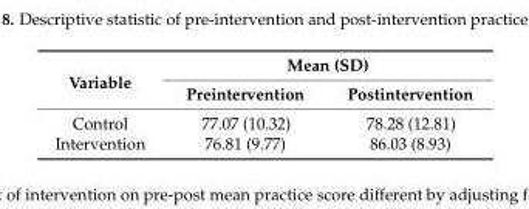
<table><thead><tr><td rowspan="2">Variable</td><td colspan="2">Mean (SD)</td></tr><tr><td>Preintervention</td><td>Postintervention</td></tr></thead><tbody><tr><td>Control Intervention</td><td>77.07 (10.32) 76.81 (9.77)</td><td>78.28 (12.81) 86.03 (8.93)</td></tr></tbody></table>